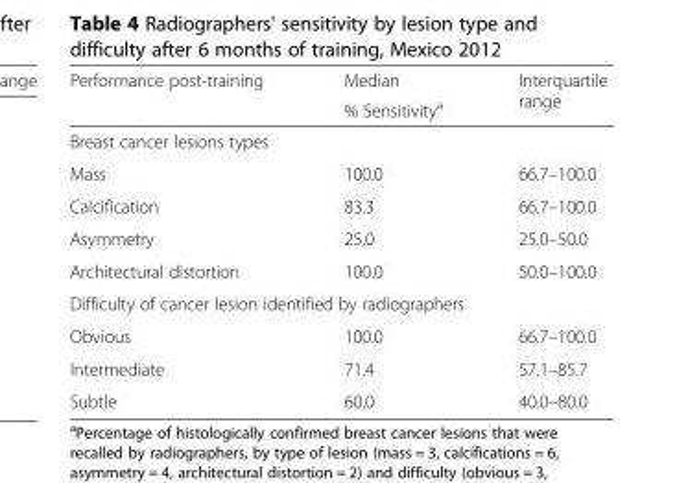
<table><thead><tr><td rowspan="2">Performance post-training</td><td rowspan="2">Median % Sensitivity<sup>a</sup></td><td rowspan="2">Interquartile range</td></tr><tr></tr></thead><tbody><tr><td colspan="3">Breast cancer lesions types</td></tr><tr><td>Mass</td><td>100.0</td><td>66.7–100.0</td></tr><tr><td>Calcification</td><td>83.3</td><td>66.7–100.0</td></tr><tr><td>Asymmetry</td><td>25.0</td><td>25.0–50.0</td></tr><tr><td>Architectural distortion</td><td>100.0</td><td>50.0–100.0</td></tr><tr><td colspan="3">Difficulty of cancer lesion identified by radiographers</td></tr><tr><td>Obvious</td><td>100.0</td><td>66.7–100.0</td></tr><tr><td>Intermediate</td><td>71.4</td><td>57.1–85.7</td></tr><tr><td>Subtle</td><td>60.0</td><td>40.0–80.0</td></tr></tbody></table>